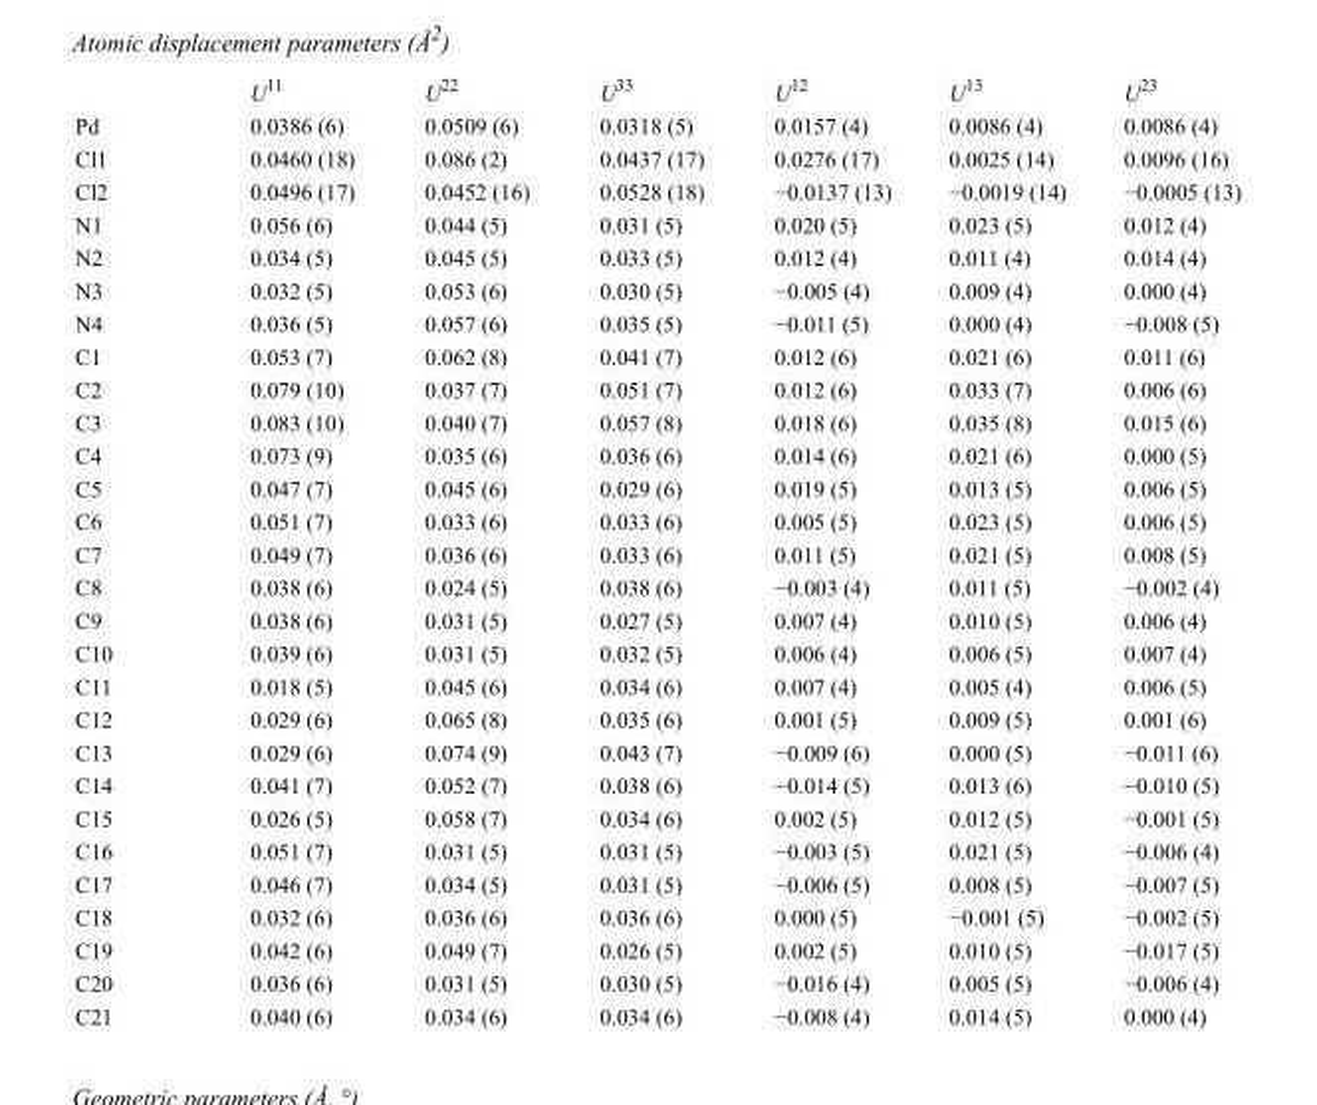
<table><thead><tr><td></td><td>U<sup>11</sup></td><td>U<sup>22</sup></td><td>U<sup>33</sup></td><td>U<sup>12</sup></td><td>U<sup>13</sup></td><td>U<sup>23</sup></td></tr></thead><tbody><tr><td>Pd</td><td>0.0386 (6)</td><td>0.0509 (6)</td><td>0.0318 (5)</td><td>0.0157 (4)</td><td>0.0086 (4)</td><td>0.0086 (4)</td></tr><tr><td>Cl1</td><td>0.0460 (18)</td><td>0.086 (2)</td><td>0.0437 (17)</td><td>0.0276 (17)</td><td>0.0025 (14)</td><td>0.0096 (16)</td></tr><tr><td>Cl2</td><td>0.0496 (17)</td><td>0.0452 (16)</td><td>0.0528 (18)</td><td>−0.0137 (13)</td><td>−0.0019 (14)</td><td>−0.0005 (13)</td></tr><tr><td>N1</td><td>0.056 (6)</td><td>0.044 (5)</td><td>0.031 (5)</td><td>0.020 (5)</td><td>0.023 (5)</td><td>0.012 (4)</td></tr><tr><td>N2</td><td>0.034 (5)</td><td>0.045 (5)</td><td>0.033 (5)</td><td>0.012 (4)</td><td>0.011 (4)</td><td>0.014 (4)</td></tr><tr><td>N3</td><td>0.032 (5)</td><td>0.053 (6)</td><td>0.030 (5)</td><td>−0.005 (4)</td><td>0.009 (4)</td><td>0.000 (4)</td></tr><tr><td>N4</td><td>0.036 (5)</td><td>0.057 (6)</td><td>0.035 (5)</td><td>−0.011 (5)</td><td>0.000 (4)</td><td>−0.008 (5)</td></tr><tr><td>C1</td><td>0.053 (7)</td><td>0.062 (8)</td><td>0.041 (7)</td><td>0.012 (6)</td><td>0.021 (6)</td><td>0.011 (6)</td></tr><tr><td>C2</td><td>0.079 (10)</td><td>0.037 (7)</td><td>0.051 (7)</td><td>0.012 (6)</td><td>0.033 (7)</td><td>0.006 (6)</td></tr><tr><td>C3</td><td>0.083 (10)</td><td>0.040 (7)</td><td>0.057 (8)</td><td>0.018 (6)</td><td>0.035 (8)</td><td>0.015 (6)</td></tr><tr><td>C4</td><td>0.073 (9)</td><td>0.035 (6)</td><td>0.036 (6)</td><td>0.014 (6)</td><td>0.021 (6)</td><td>0.000 (5)</td></tr><tr><td>C5</td><td>0.047 (7)</td><td>0.045 (6)</td><td>0.029 (6)</td><td>0.019 (5)</td><td>0.013 (5)</td><td>0.006 (5)</td></tr><tr><td>C6</td><td>0.051 (7)</td><td>0.033 (6)</td><td>0.033 (6)</td><td>0.005 (5)</td><td>0.023 (5)</td><td>0.006 (5)</td></tr><tr><td>C7</td><td>0.049 (7)</td><td>0.036 (6)</td><td>0.033 (6)</td><td>0.011 (5)</td><td>0.021 (5)</td><td>0.008 (5)</td></tr><tr><td>C8</td><td>0.038 (6)</td><td>0.024 (5)</td><td>0.038 (6)</td><td>−0.003 (4)</td><td>0.011 (5)</td><td>−0.002 (4)</td></tr><tr><td>C9</td><td>0.038 (6)</td><td>0.031 (5)</td><td>0.027 (5)</td><td>0.007 (4)</td><td>0.010 (5)</td><td>0.006 (4)</td></tr><tr><td>C10</td><td>0.039 (6)</td><td>0.031 (5)</td><td>0.032 (5)</td><td>0.006 (4)</td><td>0.006 (5)</td><td>0.007 (4)</td></tr><tr><td>C11</td><td>0.018 (5)</td><td>0.045 (6)</td><td>0.034 (6)</td><td>0.007 (4)</td><td>0.005 (4)</td><td>0.006 (5)</td></tr><tr><td>C12</td><td>0.029 (6)</td><td>0.065 (8)</td><td>0.035 (6)</td><td>0.001 (5)</td><td>0.009 (5)</td><td>0.001 (6)</td></tr><tr><td>C13</td><td>0.029 (6)</td><td>0.074 (9)</td><td>0.043 (7)</td><td>−0.009 (6)</td><td>0.000 (5)</td><td>−0.011 (6)</td></tr><tr><td>C14</td><td>0.041 (7)</td><td>0.052 (7)</td><td>0.038 (6)</td><td>−0.014 (5)</td><td>0.013 (6)</td><td>−0.010 (5)</td></tr><tr><td>C15</td><td>0.026 (5)</td><td>0.058 (7)</td><td>0.034 (6)</td><td>0.002 (5)</td><td>0.012 (5)</td><td>−0.001 (5)</td></tr><tr><td>C16</td><td>0.051 (7)</td><td>0.031 (5)</td><td>0.031 (5)</td><td>−0.003 (5)</td><td>0.021 (5)</td><td>−0.006 (4)</td></tr><tr><td>C17</td><td>0.046 (7)</td><td>0.034 (5)</td><td>0.031 (5)</td><td>−0.006 (5)</td><td>0.008 (5)</td><td>−0.007 (5)</td></tr><tr><td>C18</td><td>0.032 (6)</td><td>0.036 (6)</td><td>0.036 (6)</td><td>0.000 (5)</td><td>−0.001 (5)</td><td>−0.002 (5)</td></tr><tr><td>C19</td><td>0.042 (6)</td><td>0.049 (7)</td><td>0.026 (5)</td><td>0.002 (5)</td><td>0.010 (5)</td><td>−0.017 (5)</td></tr><tr><td>C20</td><td>0.036 (6)</td><td>0.031 (5)</td><td>0.030 (5)</td><td>−0.016 (4)</td><td>0.005 (5)</td><td>−0.006 (4)</td></tr><tr><td>C21</td><td>0.040 (6)</td><td>0.034 (6)</td><td>0.034 (6)</td><td>−0.008 (4)</td><td>0.014 (5)</td><td>0.000 (4)</td></tr></tbody></table>